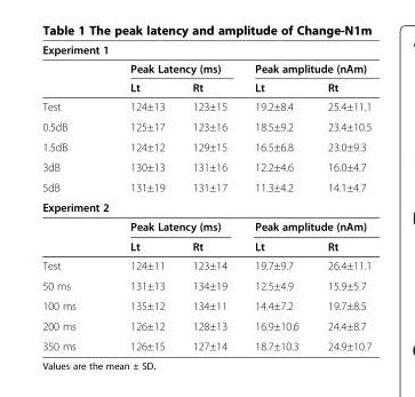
<table><thead><tr><td colspan="5">Experiment 1</td></tr><tr><td rowspan="2"></td><td colspan="2">Peak Latency (ms)</td><td colspan="2">Peak amplitude (nAm)</td></tr><tr><td>Lt</td><td>Rt</td><td>Lt</td><td>Rt</td></tr></thead><tbody><tr><td>Test</td><td>124±13</td><td>123±15</td><td>19.2±8.4</td><td>25.4±11.1</td></tr><tr><td>0.5dB</td><td>125±17</td><td>123±16</td><td>18.5±9.2</td><td>23.4±10.5</td></tr><tr><td>1.5dB</td><td>124±12</td><td>129±15</td><td>16.5±6.8</td><td>23.0±9.3</td></tr><tr><td>3dB</td><td>130±13</td><td>131±16</td><td>12.2±4.6</td><td>16.0±4.7</td></tr><tr><td>5dB</td><td>131±19</td><td>131±17</td><td>11.3±4.2</td><td>14.1±4.7</td></tr><tr><td colspan="5">Experiment 2</td></tr><tr><td></td><td colspan="2">Peak Latency (ms)</td><td colspan="2">Peak amplitude (nAm)</td></tr><tr><td></td><td>Lt</td><td>Rt</td><td>Lt</td><td>Rt</td></tr><tr><td>Test</td><td>124±11</td><td>123±14</td><td>19.7±9.7</td><td>26.4±11.1</td></tr><tr><td>50 ms</td><td>131±13</td><td>134±19</td><td>12.5±4.9</td><td>15.9±5.7</td></tr><tr><td>100 ms</td><td>135±12</td><td>134±11</td><td>14.4±7.2</td><td>19.7±8.5</td></tr><tr><td>200 ms</td><td>126±12</td><td>128±13</td><td>16.9±10.6</td><td>24.4±8.7</td></tr><tr><td>350 ms</td><td>126±15</td><td>127±14</td><td>18.7±10.3</td><td>24.9±10.7</td></tr></tbody></table>